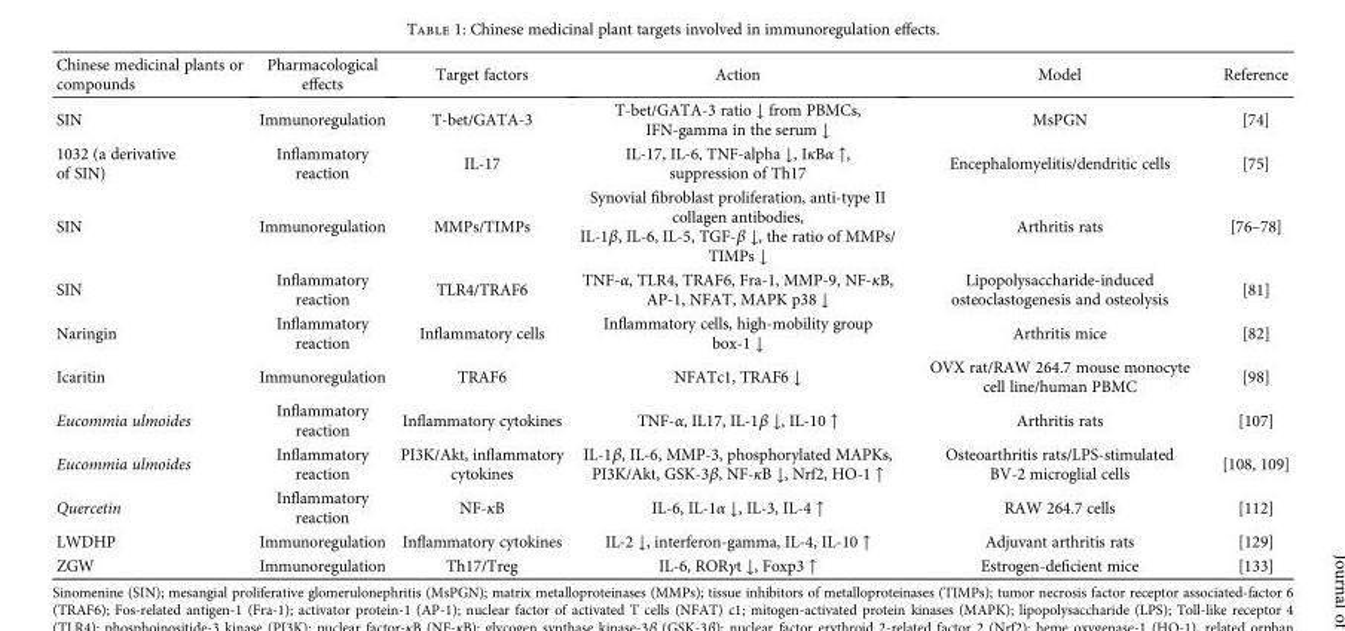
<table><thead><tr><td>Chinese medicinal plants or compounds</td><td>Pharmacological effects</td><td>Target factors</td><td>Action</td><td>Model</td><td>Reference</td></tr></thead><tbody><tr><td>SIN</td><td>Immunoregulation</td><td>T-bet/GATA-3</td><td>T-bet/GATA-3 ratio ↓ from PBMCs, IFN-gamma in the serum ↓</td><td>MsPGN</td><td>[74]</td></tr><tr><td>1032 (a derivative of SIN)</td><td>Inflammatory reaction</td><td>IL-17</td><td>IL-17, IL-6, TNF-alpha ↓, IκBα ↑, suppression of Th17</td><td>Encephalomyelitis/dendritic cells</td><td>[75]</td></tr><tr><td>SIN</td><td>Immunoregulation</td><td>MMPs/TIMPs</td><td>Synovial fibroblast proliferation, anti-type II collagen antibodies, IL-1β, IL-6, IL-5, TGF-β ↓, the ratio of MMPs/ TIMPs ↓</td><td>Arthritis rats</td><td>[76–78]</td></tr><tr><td>SIN</td><td>Inflammatory reaction</td><td>TLR4/TRAF6</td><td>TNF-α, TLR4, TRAF6, Fra-1, MMP-9, NF-κB, AP-1, NFAT, MAPK p38 ↓</td><td>Lipopolysaccharide-induced osteoclastogenesis and osteolysis</td><td>[81]</td></tr><tr><td>Naringin</td><td>Inflammatory reaction</td><td>Inflammatory cells</td><td>Inflammatory cells, high-mobility group box-1 ↓</td><td>Arthritis mice</td><td>[82]</td></tr><tr><td>Icaritin</td><td>Immunoregulation</td><td>TRAF6</td><td>NFATc1, TRAF6 ↓</td><td>OVX rat/RAW 264.7 mouse monocyte cell line/human PBMC</td><td>[98]</td></tr><tr><td>Eucommia ulmoides</td><td>Inflammatory reaction</td><td>Inflammatory cytokines</td><td>TNF-α, IL17, IL-1β ↓, IL-10 ↑</td><td>Arthritis rats</td><td>[107]</td></tr><tr><td>Eucommia ulmoides</td><td>Inflammatory reaction</td><td>PI3K/Akt, inflammatory cytokines</td><td>IL-1β, IL-6, MMP-3, phosphorylated MAPKs, PI3K/Akt, GSK-3β, NF-κB ↓, Nrf2, HO-1 ↑</td><td>Osteoarthritis rats/LPS-stimulated BV-2 microglial cells</td><td>[108, 109]</td></tr><tr><td>Quercetin</td><td>Inflammatory reaction</td><td>NF-κB</td><td>IL-6, IL-1α ↓, IL-3, IL-4 ↑</td><td>RAW 264.7 cells</td><td>[112]</td></tr><tr><td>LWDHP</td><td>Immunoregulation</td><td>Inflammatory cytokines</td><td>IL-2 ↓, interferon-gamma, IL-4, IL-10 ↑</td><td>Adjuvant arthritis rats</td><td>[129]</td></tr><tr><td>ZGW</td><td>Immunoregulation</td><td>Th17/Treg</td><td>IL-6, RORγt ↓, Foxp3 ↑</td><td>Estrogen-deficient mice</td><td>[133]</td></tr></tbody></table>